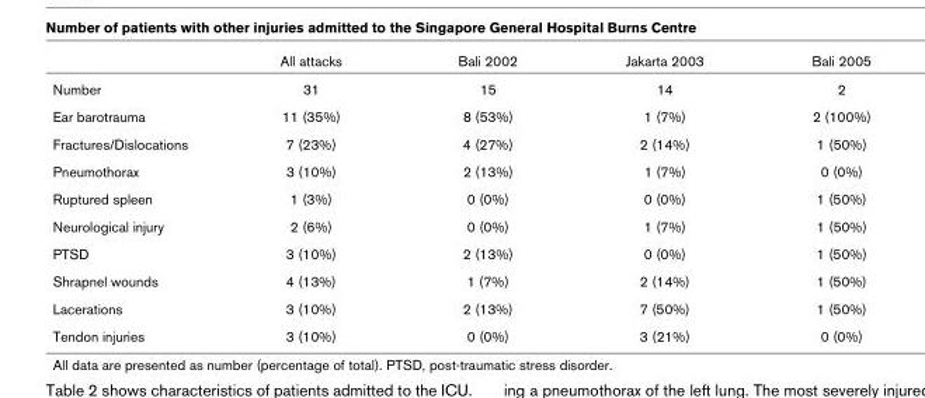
<table><thead><tr><td></td><td>All attacks</td><td>Bali 2002</td><td>Jakarta 2003</td><td>Bali 2005</td></tr></thead><tbody><tr><td>Number</td><td>31</td><td>15</td><td>14</td><td>2</td></tr><tr><td>Ear barotrauma</td><td>11 (35%)</td><td>8 (53%)</td><td>1 (7%)</td><td>2 (100%)</td></tr><tr><td>Fractures/Dislocations</td><td>7 (23%)</td><td>4 (27%)</td><td>2 (14%)</td><td>1 (50%)</td></tr><tr><td>Pneumothorax</td><td>3 (10%)</td><td>2 (13%)</td><td>1 (7%)</td><td>0 (0%)</td></tr><tr><td>Ruptured spleen</td><td>1 (3%)</td><td>0 (0%)</td><td>0 (0%)</td><td>1 (50%)</td></tr><tr><td>Neurological injury</td><td>2 (6%)</td><td>0 (0%)</td><td>1 (7%)</td><td>1 (50%)</td></tr><tr><td>PTSD</td><td>3 (10%)</td><td>2 (13%)</td><td>0 (0%)</td><td>1 (50%)</td></tr><tr><td>Shrapnel wounds</td><td>4 (13%)</td><td>1 (7%)</td><td>2 (14%)</td><td>1 (50%)</td></tr><tr><td>Lacerations</td><td>3 (10%)</td><td>2 (13%)</td><td>7 (50%)</td><td>1 (50%)</td></tr><tr><td>Tendon injuries</td><td>3 (10%)</td><td>0 (0%)</td><td>3 (21%)</td><td>0 (0%)</td></tr></tbody></table>